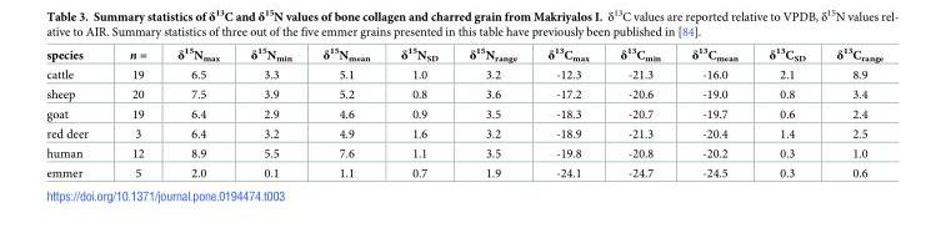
<table><thead><tr><td>species</td><td>n =</td><td>δ<sup>15</sup>N<sub>max</sub></td><td>δ<sup>15</sup>N<sub>min</sub></td><td>δ<sup>15</sup>N<sub>mean</sub></td><td>δ<sup>15</sup>N<sub>SD</sub></td><td>δ<sup>15</sup>N<sub>range</sub></td><td>δ<sup>13</sup>C<sub>max</sub></td><td>δ<sup>13</sup>C<sub>min</sub></td><td>δ<sup>13</sup>C<sub>mean</sub></td><td>δ<sup>13</sup>C<sub>SD</sub></td><td>δ<sup>13</sup>C<sub>range</sub></td></tr></thead><tbody><tr><td>cattle</td><td>19</td><td>6.5</td><td>3.3</td><td>5.1</td><td>1.0</td><td>3.2</td><td>-12.3</td><td>-21.3</td><td>-16.0</td><td>2.1</td><td>8.9</td></tr><tr><td>sheep</td><td>20</td><td>7.5</td><td>3.9</td><td>5.2</td><td>0.8</td><td>3.6</td><td>-17.2</td><td>-20.6</td><td>-19.0</td><td>0.8</td><td>3.4</td></tr><tr><td>goat</td><td>19</td><td>6.4</td><td>2.9</td><td>4.6</td><td>0.9</td><td>3.5</td><td>-18.3</td><td>-20.7</td><td>-19.7</td><td>0.6</td><td>2.4</td></tr><tr><td>red deer</td><td>3</td><td>6.4</td><td>3.2</td><td>4.9</td><td>1.6</td><td>3.2</td><td>-18.9</td><td>-21.3</td><td>-20.4</td><td>1.4</td><td>2.5</td></tr><tr><td>human</td><td>12</td><td>8.9</td><td>5.5</td><td>7.6</td><td>1.1</td><td>3.5</td><td>-19.8</td><td>-20.8</td><td>-20.2</td><td>0.3</td><td>1.0</td></tr><tr><td>emmer</td><td>5</td><td>2.0</td><td>0.1</td><td>1.1</td><td>0.7</td><td>1.9</td><td>-24.1</td><td>-24.7</td><td>-24.5</td><td>0.3</td><td>0.6</td></tr></tbody></table>